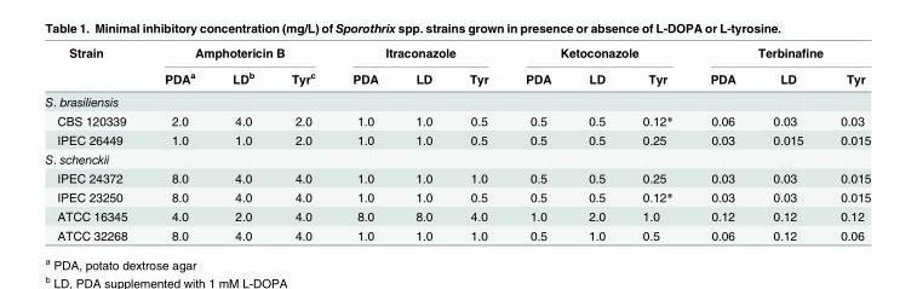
<table><thead><tr><td rowspan="2">Strain</td><td colspan="3">Amphotericin B</td><td colspan="3">Itraconazole</td><td colspan="3">Ketoconazole</td><td colspan="3">Terbinafine</td></tr><tr><td>PDA<sup>a</sup></td><td>LD<sup>b</sup></td><td>Tyr<sup>c</sup></td><td>PDA</td><td>LD</td><td>Tyr</td><td>PDA</td><td>LD</td><td>Tyr</td><td>PDA</td><td>LD</td><td>Tyr</td></tr></thead><tbody><tr><td colspan="13">S. brasiliensis</td></tr><tr><td>CBS 120339</td><td>2.0</td><td>4.0</td><td>2.0</td><td>1.0</td><td>1.0</td><td>0.5</td><td>0.5</td><td>0.5</td><td>0.12*</td><td>0.06</td><td>0.03</td><td>0.03</td></tr><tr><td>IPEC 26449</td><td>1.0</td><td>1.0</td><td>2.0</td><td>1.0</td><td>1.0</td><td>0.5</td><td>0.5</td><td>0.5</td><td>0.25</td><td>0.03</td><td>0.015</td><td>0.015</td></tr><tr><td colspan="13">S. schenckii</td></tr><tr><td>IPEC 24372</td><td>8.0</td><td>4.0</td><td>4.0</td><td>1.0</td><td>1.0</td><td>1.0</td><td>0.5</td><td>0.5</td><td>0.25</td><td>0.03</td><td>0.03</td><td>0.015</td></tr><tr><td>IPEC 23250</td><td>8.0</td><td>4.0</td><td>4.0</td><td>1.0</td><td>1.0</td><td>0.5</td><td>0.5</td><td>0.5</td><td>0.12*</td><td>0.03</td><td>0.03</td><td>0.015</td></tr><tr><td>ATCC 16345</td><td>4.0</td><td>2.0</td><td>4.0</td><td>8.0</td><td>8.0</td><td>4.0</td><td>1.0</td><td>2.0</td><td>1.0</td><td>0.12</td><td>0.12</td><td>0.12</td></tr><tr><td>ATCC 32268</td><td>8.0</td><td>4.0</td><td>4.0</td><td>1.0</td><td>1.0</td><td>1.0</td><td>0.5</td><td>1.0</td><td>0.5</td><td>0.06</td><td>0.12</td><td>0.06</td></tr></tbody></table>